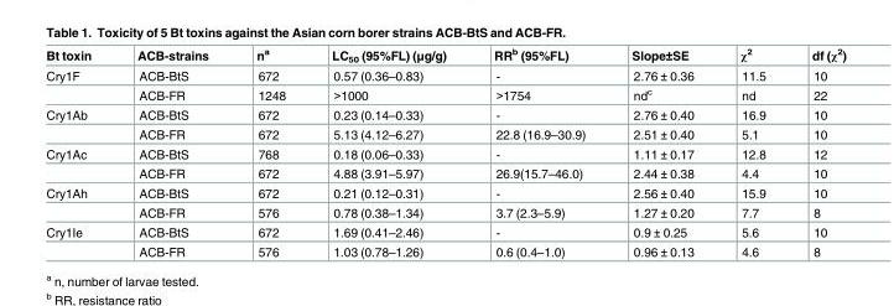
<table><thead><tr><td>Bt toxin</td><td>ACB-strains</td><td>n<sup>a</sup></td><td>LC<sub>50</sub> (95%FL) (μg/g)</td><td>RR<sup>b</sup> (95%FL)</td><td>Slope±SE</td><td>χ<sup>2</sup></td><td>df (χ<sup>2</sup>)</td></tr></thead><tbody><tr><td rowspan="2">Cry1F</td><td>ACB-BtS</td><td>672</td><td>0.57 (0.36–0.83)</td><td>-</td><td>2.76 ± 0.36</td><td>11.5</td><td>10</td></tr><tr><td>ACB-FR</td><td>1248</td><td>&gt;1000</td><td>&gt;1754</td><td>nd<sup>c</sup></td><td>nd</td><td>22</td></tr><tr><td rowspan="2">Cry1Ab</td><td>ACB-BtS</td><td>672</td><td>0.23 (0.14–0.33)</td><td>-</td><td>2.76 ± 0.40</td><td>16.9</td><td>10</td></tr><tr><td>ACB-FR</td><td>672</td><td>5.13 (4.12–6.27)</td><td>22.8 (16.9–30.9)</td><td>2.51 ± 0.40</td><td>5.1</td><td>10</td></tr><tr><td rowspan="2">Cry1Ac</td><td>ACB-BtS</td><td>768</td><td>0.18 (0.06–0.33)</td><td>-</td><td>1.11 ± 0.17</td><td>12.8</td><td>12</td></tr><tr><td>ACB-FR</td><td>672</td><td>4.88 (3.91–5.97)</td><td>26.9(15.7–46.0)</td><td>2.44 ± 0.38</td><td>4.4</td><td>10</td></tr><tr><td rowspan="2">Cry1Ah</td><td>ACB-BtS</td><td>672</td><td>0.21 (0.12–0.31)</td><td>-</td><td>2.56 ± 0.40</td><td>15.9</td><td>10</td></tr><tr><td>ACB-FR</td><td>576</td><td>0.78 (0.38–1.34)</td><td>3.7 (2.3–5.9)</td><td>1.27 ± 0.20</td><td>7.7</td><td>8</td></tr><tr><td rowspan="2">Cry1Ie</td><td>ACB-BtS</td><td>672</td><td>1.69 (0.41–2.46)</td><td>-</td><td>0.9 ± 0.25</td><td>5.6</td><td>10</td></tr><tr><td>ACB-FR</td><td>576</td><td>1.03 (0.78–1.26)</td><td>0.6 (0.4–1.0)</td><td>0.96 ± 0.13</td><td>4.6</td><td>8</td></tr></tbody></table>